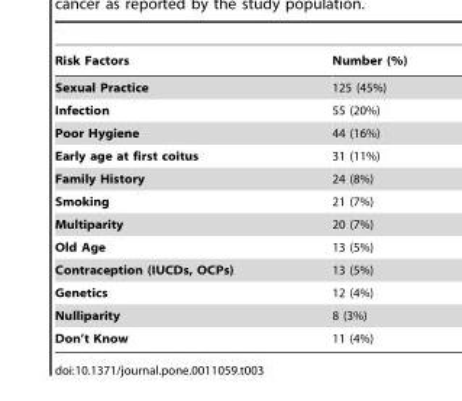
<table><thead><tr><td>Risk Factors</td><td>Number (%)</td></tr></thead><tbody><tr><td>Sexual Practice</td><td>125 (45%)</td></tr><tr><td>Infection</td><td>55 (20%)</td></tr><tr><td>Poor Hygiene</td><td>44 (16%)</td></tr><tr><td>Early age at first coitus</td><td>31 (11%)</td></tr><tr><td>Family History</td><td>24 (8%)</td></tr><tr><td>Smoking</td><td>21 (7%)</td></tr><tr><td>Multiparity</td><td>20 (7%)</td></tr><tr><td>Old Age</td><td>13 (5%)</td></tr><tr><td>Contraception (IUCDs, OCPs)</td><td>13 (5%)</td></tr><tr><td>Genetics</td><td>12 (4%)</td></tr><tr><td>Nulliparity</td><td>8 (3%)</td></tr><tr><td>Don’t Know</td><td>11 (4%)</td></tr></tbody></table>